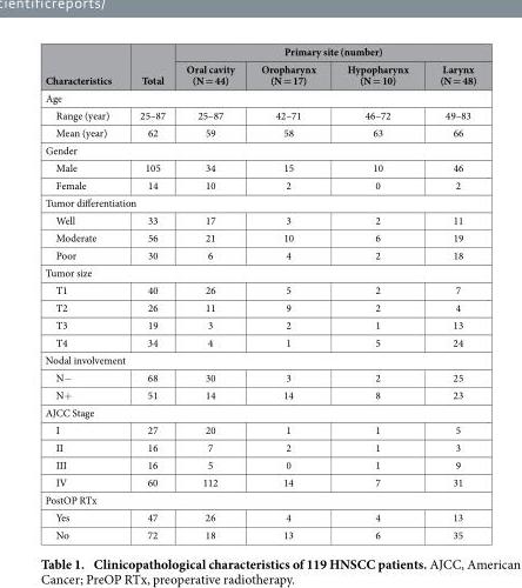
<table><thead><tr><td rowspan="2">Characteristics</td><td rowspan="2">Total</td><td colspan="4">Primary site (number)</td></tr><tr><td>Oral cavity (N = 44)</td><td>Oropharynx (N = 17)</td><td>Hypopharynx (N = 10)</td><td>Larynx (N = 48)</td></tr></thead><tbody><tr><td colspan="6">Age</td></tr><tr><td>Range (year)</td><td>25–87</td><td>25–87</td><td>42–71</td><td>46–72</td><td>49–83</td></tr><tr><td>Mean (year)</td><td>62</td><td>59</td><td>58</td><td>63</td><td>66</td></tr><tr><td colspan="6">Gender</td></tr><tr><td>Male</td><td>105</td><td>34</td><td>15</td><td>10</td><td>46</td></tr><tr><td>Female</td><td>14</td><td>10</td><td>2</td><td>0</td><td>2</td></tr><tr><td colspan="6">Tumor differentiation</td></tr><tr><td>Well</td><td>33</td><td>17</td><td>3</td><td>2</td><td>11</td></tr><tr><td>Moderate</td><td>56</td><td>21</td><td>10</td><td>6</td><td>19</td></tr><tr><td>Poor</td><td>30</td><td>6</td><td>4</td><td>2</td><td>18</td></tr><tr><td colspan="6">Tumor size</td></tr><tr><td>T1</td><td>40</td><td>26</td><td>5</td><td>2</td><td>7</td></tr><tr><td>T2</td><td>26</td><td>11</td><td>9</td><td>2</td><td>4</td></tr><tr><td>T3</td><td>19</td><td>3</td><td>2</td><td>1</td><td>13</td></tr><tr><td>T4</td><td>34</td><td>4</td><td>1</td><td>5</td><td>24</td></tr><tr><td colspan="6">Nodal involvement</td></tr><tr><td>N−</td><td>68</td><td>30</td><td>3</td><td>2</td><td>25</td></tr><tr><td>N+</td><td>51</td><td>14</td><td>14</td><td>8</td><td>23</td></tr><tr><td colspan="6">AJCC Stage</td></tr><tr><td>I</td><td>27</td><td>20</td><td>1</td><td>1</td><td>5</td></tr><tr><td>II</td><td>16</td><td>7</td><td>2</td><td>1</td><td>3</td></tr><tr><td>III</td><td>16</td><td>5</td><td>0</td><td>1</td><td>9</td></tr><tr><td>IV</td><td>60</td><td>112</td><td>14</td><td>7</td><td>31</td></tr><tr><td colspan="6">PostOP RTx</td></tr><tr><td>Yes</td><td>47</td><td>26</td><td>4</td><td>4</td><td>13</td></tr><tr><td>No</td><td>72</td><td>18</td><td>13</td><td>6</td><td>35</td></tr></tbody></table>